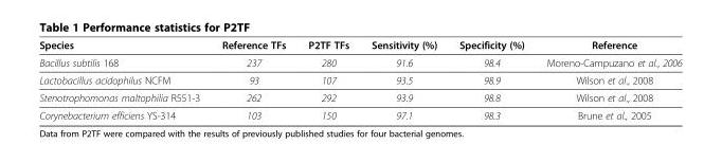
<table><thead><tr><td>Species</td><td>Reference TFs</td><td>P2TF TFs</td><td>Sensitivity (%)</td><td>Specificity (%)</td><td>Reference</td></tr></thead><tbody><tr><td>Bacillus subtilis 168</td><td>237</td><td>280</td><td>91.6</td><td>98.4</td><td>Moreno-Campuzano et al., 2006</td></tr><tr><td>Lactobacillus acidophilus NCFM</td><td>93</td><td>107</td><td>93.5</td><td>98.9</td><td>Wilson et al., 2008</td></tr><tr><td>Stenotrophomonas maltophilia R551-3</td><td>262</td><td>292</td><td>93.9</td><td>98.8</td><td>Wilson et al., 2008</td></tr><tr><td>Corynebacterium efficiens YS-314</td><td>103</td><td>150</td><td>97.1</td><td>98.3</td><td>Brune et al., 2005</td></tr></tbody></table>